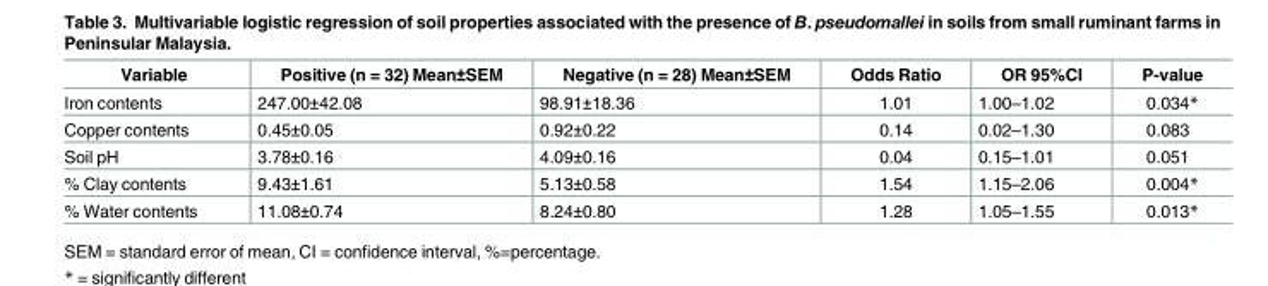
<table><thead><tr><td>Variable</td><td>Positive (n = 32) Mean±SEM</td><td>Negative (n = 28) Mean±SEM</td><td>Odds Ratio</td><td>OR 95%CI</td><td>P-value</td></tr></thead><tbody><tr><td>Iron contents</td><td>247.00±42.08</td><td>98.91±18.36</td><td>1.01</td><td>1.00–1.02</td><td>0.034*</td></tr><tr><td>Copper contents</td><td>0.45±0.05</td><td>0.92±0.22</td><td>0.14</td><td>0.02–1.30</td><td>0.083</td></tr><tr><td>Soil pH</td><td>3.78±0.16</td><td>4.09±0.16</td><td>0.04</td><td>0.15–1.01</td><td>0.051</td></tr><tr><td>% Clay contents</td><td>9.43±1.61</td><td>5.13±0.58</td><td>1.54</td><td>1.15–2.06</td><td>0.004*</td></tr><tr><td>% Water contents</td><td>11.08±0.74</td><td>8.24±0.80</td><td>1.28</td><td>1.05–1.55</td><td>0.013*</td></tr></tbody></table>